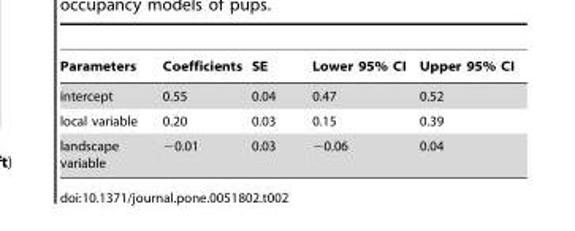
<table><thead><tr><td>Parameters</td><td>Coefficients</td><td>SE</td><td>Lower 95% CI</td><td>Upper 95% CI</td></tr></thead><tbody><tr><td>intercept</td><td>0.55</td><td>0.04</td><td>0.47</td><td>0.52</td></tr><tr><td>local variable</td><td>0.20</td><td>0.03</td><td>0.15</td><td>0.39</td></tr><tr><td>landscape variable</td><td>−0.01</td><td>0.03</td><td>−0.06</td><td>0.04</td></tr></tbody></table>